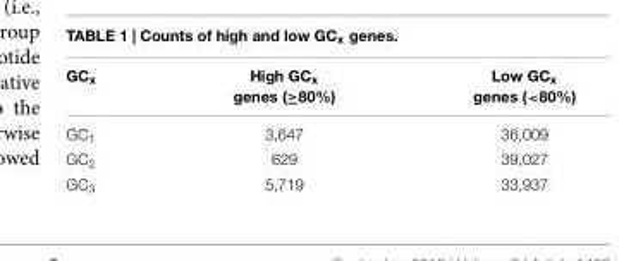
<table><thead><tr><td>GC<sub>x</sub></td><td>High GC<sub>x</sub> genes (≥80%)</td><td>Low GC<sub>x</sub> genes (&lt;80%)</td></tr></thead><tbody><tr><td>GC<sub>1</sub></td><td>3,647</td><td>36,009</td></tr><tr><td>GC<sub>2</sub></td><td>629</td><td>39,027</td></tr><tr><td>GC<sub>3</sub></td><td>5,719</td><td>33,937</td></tr></tbody></table>